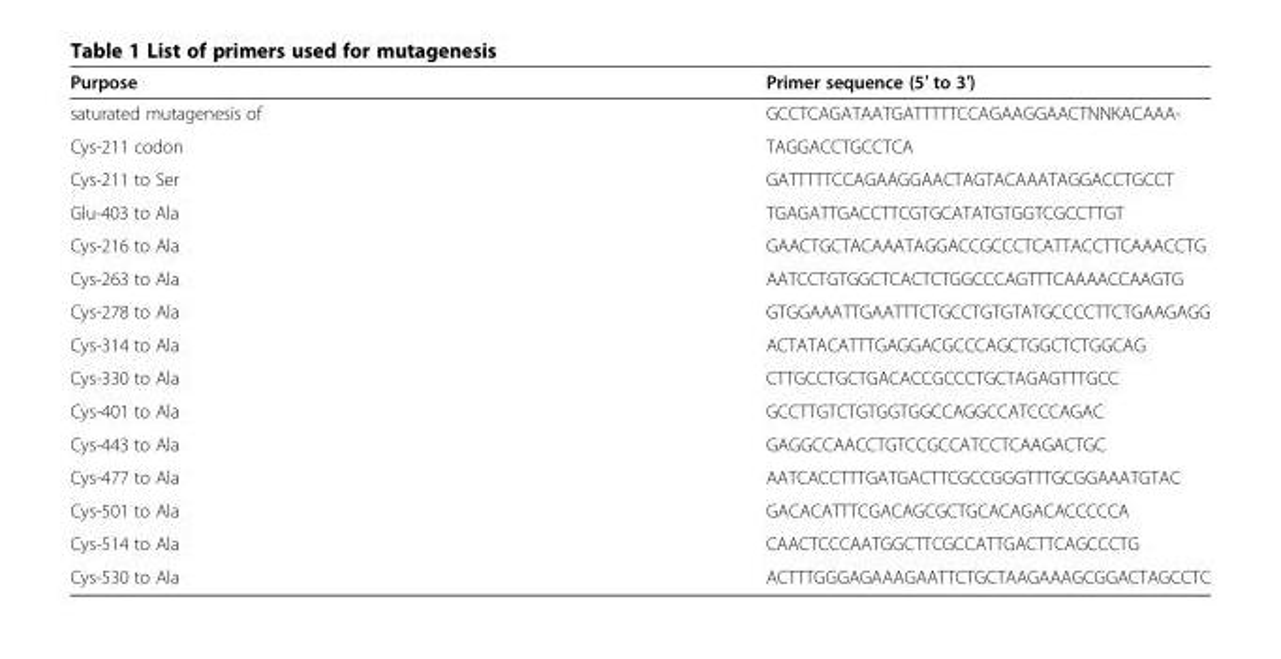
<table><thead><tr><td>Purpose</td><td>Primer sequence (5′ to 3′)</td></tr></thead><tbody><tr><td>saturated mutagenesis of</td><td>GCCTCAGATAATGATTTTTCCAGAAGGAACTNNKACAAA-</td></tr><tr><td>Cys-211 codon</td><td>TAGGACCTGCCTCA</td></tr><tr><td>Cys-211 to Ser</td><td>GATTTTTCCAGAAGGAACTAGTACAAATAGGACCTGCCT</td></tr><tr><td>Glu-403 to Ala</td><td>TGAGATTGACCTTCGTGCATATGTGGTCGCCTTGT</td></tr><tr><td>Cys-216 to Ala</td><td>GAACTGCTACAAATAGGACCGCCCTCATTACCTTCAAACCTG</td></tr><tr><td>Cys-263 to Ala</td><td>AATCCTGTGGCTCACTCTGGCCCAGTTTCAAAACCAAGTG</td></tr><tr><td>Cys-278 to Ala</td><td>GTGGAAATTGAATTTCTGCCTGTGTATGCCCCTTCTGAAGAGG</td></tr><tr><td>Cys-314 to Ala</td><td>ACTATACATTTGAGGACGCCCAGCTGGCTCTGGCAG</td></tr><tr><td>Cys-330 to Ala</td><td>CTTGCCTGCTGACACCGCCCTGCTAGAGTTTGCC</td></tr><tr><td>Cys-401 to Ala</td><td>GCCTTGTCTGTGGTGGCCAGGCCATCCCAGAC</td></tr><tr><td>Cys-443 to Ala</td><td>GAGGCCAACCTGTCCGCCATCCTCAAGACTGC</td></tr><tr><td>Cys-477 to Ala</td><td>AATCACCTTTGATGACTTCGCCGGGTTTGCGGAAATGTAC</td></tr><tr><td>Cys-501 to Ala</td><td>GACACATTTCGACAGCGCTGCACAGACACCCCCA</td></tr><tr><td>Cys-514 to Ala</td><td>CAACTCCCAATGGCTTCGCCATTGACTTCAGCCCTG</td></tr><tr><td>Cys-530 to Ala</td><td>ACTTTGGGAGAAAGAATTCTGCTAAGAAAGCGGACTAGCCTC</td></tr></tbody></table>